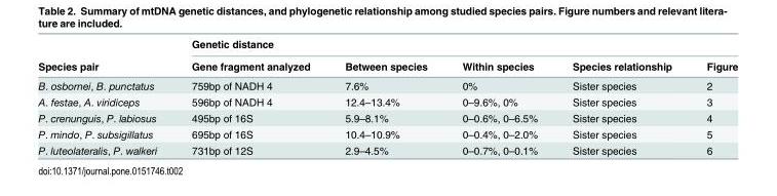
<table><thead><tr><td rowspan="2">Species pair</td><td colspan="5">Genetic distance</td></tr><tr><td>Gene fragment analyzed</td><td>Between species</td><td>Within species</td><td>Species relationship</td><td>Figure</td></tr></thead><tbody><tr><td>B. osbornei, B. punctatus</td><td>759bp of NADH 4</td><td>7.6%</td><td>0%</td><td>Sister species</td><td>2</td></tr><tr><td>A. festae, A. viridiceps</td><td>596bp of NADH 4</td><td>12.4–13.4%</td><td>0–9.6%, 0%</td><td>Sister species</td><td>3</td></tr><tr><td>P. crenunguis, P. labiosus</td><td>495bp of 16S</td><td>5.9–8.1%</td><td>0–0.6%, 0–6.5%</td><td>Sister species</td><td>4</td></tr><tr><td>P. mindo, P. subsigillatus</td><td>695bp of 16S</td><td>10.4–10.9%</td><td>0–0.4%, 0–2.0%</td><td>Sister species</td><td>5</td></tr><tr><td>P. luteolateralis, P. walkeri</td><td>731bp of 12S</td><td>2.9–4.5%</td><td>0–0.7%, 0–0.1%</td><td>Sister species</td><td>6</td></tr></tbody></table>